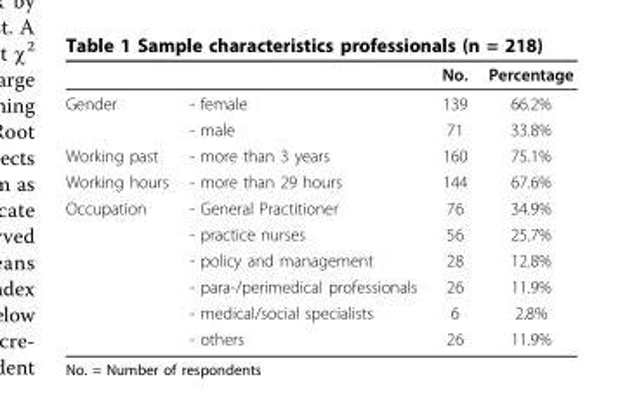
<table><thead><tr><td></td><td></td><td>No.</td><td>Percentage</td></tr></thead><tbody><tr><td rowspan="2">Gender</td><td>- female</td><td>139</td><td>66.2%</td></tr><tr><td>- male</td><td>71</td><td>33.8%</td></tr><tr><td>Working past</td><td>- more than 3 years</td><td>160</td><td>75.1%</td></tr><tr><td>Working hours</td><td>- more than 29 hours</td><td>144</td><td>67.6%</td></tr><tr><td rowspan="6">Occupation</td><td>- General Practitioner</td><td>76</td><td>34.9%</td></tr><tr><td>- practice nurses</td><td>56</td><td>25.7%</td></tr><tr><td>- policy and management</td><td>28</td><td>12.8%</td></tr><tr><td>- para-/perimedical professionals</td><td>26</td><td>11.9%</td></tr><tr><td>- medical/social specialists</td><td>6</td><td>2.8%</td></tr><tr><td>- others</td><td>26</td><td>11.9%</td></tr></tbody></table>